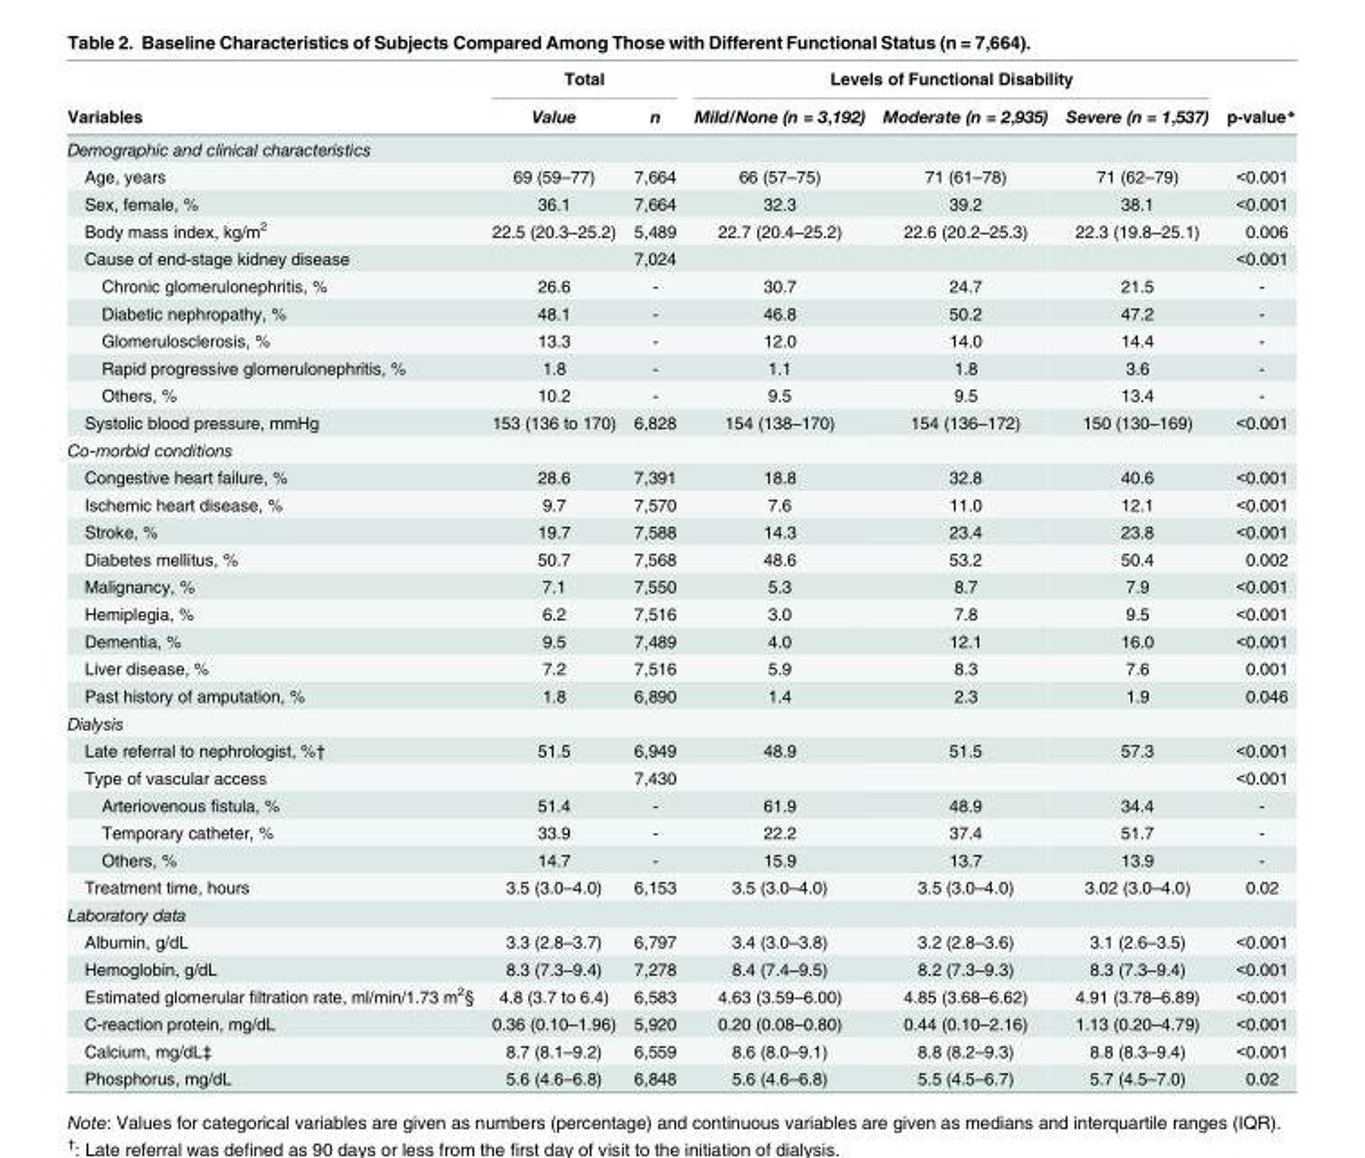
<table><thead><tr><td rowspan="2">Variables</td><td colspan="2">Total</td><td colspan="3">Levels of Functional Disability</td><td rowspan="2">p-value*</td></tr><tr><td>Value</td><td>n</td><td>Mild/None (n = 3,192)</td><td>Moderate (n = 2,935)</td><td>Severe (n = 1,537)</td></tr></thead><tbody><tr><td colspan="7">Demographic and clinical characteristics</td></tr><tr><td>Age, years</td><td>69 (59–77)</td><td>7,664</td><td>66 (57–75)</td><td>71 (61–78)</td><td>71 (62–79)</td><td>&lt;0.001</td></tr><tr><td>Sex, female, %</td><td>36.1</td><td>7,664</td><td>32.3</td><td>39.2</td><td>38.1</td><td>&lt;0.001</td></tr><tr><td>Body mass index, kg/m<sup>2</sup></td><td>22.5 (20.3–25.2)</td><td>5,489</td><td>22.7 (20.4–25.2)</td><td>22.6 (20.2–25.3)</td><td>22.3 (19.8–25.1)</td><td>0.006</td></tr><tr><td colspan="2">Cause of end-stage kidney disease</td><td>7,024</td><td></td><td></td><td></td><td>&lt;0.001</td></tr><tr><td>Chronic glomerulonephritis, %</td><td>26.6</td><td>-</td><td>30.7</td><td>24.7</td><td>21.5</td><td>-</td></tr><tr><td>Diabetic nephropathy, %</td><td>48.1</td><td>-</td><td>46.8</td><td>50.2</td><td>47.2</td><td>-</td></tr><tr><td>Glomerulosclerosis, %</td><td>13.3</td><td>-</td><td>12.0</td><td>14.0</td><td>14.4</td><td>-</td></tr><tr><td>Rapid progressive glomerulonephritis, %</td><td>1.8</td><td>-</td><td>1.1</td><td>1.8</td><td>3.6</td><td>-</td></tr><tr><td>Others, %</td><td>10.2</td><td>-</td><td>9.5</td><td>9.5</td><td>13.4</td><td>-</td></tr><tr><td>Systolic blood pressure, mmHg</td><td>153 (136 to 170)</td><td>6,828</td><td>154 (138–170)</td><td>154 (136–172)</td><td>150 (130–169)</td><td>&lt;0.001</td></tr><tr><td colspan="7">Co-morbid conditions</td></tr><tr><td>Congestive heart failure, %</td><td>28.6</td><td>7,391</td><td>18.8</td><td>32.8</td><td>40.6</td><td>&lt;0.001</td></tr><tr><td>Ischemic heart disease, %</td><td>9.7</td><td>7,570</td><td>7.6</td><td>11.0</td><td>12.1</td><td>&lt;0.001</td></tr><tr><td>Stroke, %</td><td>19.7</td><td>7,588</td><td>14.3</td><td>23.4</td><td>23.8</td><td>&lt;0.001</td></tr><tr><td>Diabetes mellitus, %</td><td>50.7</td><td>7,568</td><td>48.6</td><td>53.2</td><td>50.4</td><td>0.002</td></tr><tr><td>Malignancy, %</td><td>7.1</td><td>7,550</td><td>5.3</td><td>8.7</td><td>7.9</td><td>&lt;0.001</td></tr><tr><td>Hemiplegia, %</td><td>6.2</td><td>7,516</td><td>3.0</td><td>7.8</td><td>9.5</td><td>&lt;0.001</td></tr><tr><td>Dementia, %</td><td>9.5</td><td>7,489</td><td>4.0</td><td>12.1</td><td>16.0</td><td>&lt;0.001</td></tr><tr><td>Liver disease, %</td><td>7.2</td><td>7,516</td><td>5.9</td><td>8.3</td><td>7.6</td><td>0.001</td></tr><tr><td>Past history of amputation, %</td><td>1.8</td><td>6,890</td><td>1.4</td><td>2.3</td><td>1.9</td><td>0.046</td></tr><tr><td colspan="7">Dialysis</td></tr><tr><td>Late referral to nephrologist, %†</td><td>51.5</td><td>6,949</td><td>48.9</td><td>51.5</td><td>57.3</td><td>&lt;0.001</td></tr><tr><td>Type of vascular access</td><td></td><td>7,430</td><td></td><td></td><td></td><td>&lt;0.001</td></tr><tr><td>Arteriovenous fistula, %</td><td>51.4</td><td>-</td><td>61.9</td><td>48.9</td><td>34.4</td><td>-</td></tr><tr><td>Temporary catheter, %</td><td>33.9</td><td>-</td><td>22.2</td><td>37.4</td><td>51.7</td><td>-</td></tr><tr><td>Others, %</td><td>14.7</td><td>-</td><td>15.9</td><td>13.7</td><td>13.9</td><td>-</td></tr><tr><td>Treatment time, hours</td><td>3.5 (3.0–4.0)</td><td>6,153</td><td>3.5 (3.0–4.0)</td><td>3.5 (3.0–4.0)</td><td>3.02 (3.0–4.0)</td><td>0.02</td></tr><tr><td colspan="7">Laboratory data</td></tr><tr><td>Albumin, g/dL</td><td>3.3 (2.8–3.7)</td><td>6,797</td><td>3.4 (3.0–3.8)</td><td>3.2 (2.8–3.6)</td><td>3.1 (2.6–3.5)</td><td>&lt;0.001</td></tr><tr><td>Hemoglobin, g/dL</td><td>8.3 (7.3–9.4)</td><td>7,278</td><td>8.4 (7.4–9.5)</td><td>8.2 (7.3–9.3)</td><td>8.3 (7.3–9.4)</td><td>&lt;0.001</td></tr><tr><td>Estimated glomerular filtration rate, ml/min/1.73 m<sup>2</sup>§</td><td>4.8 (3.7 to 6.4)</td><td>6,583</td><td>4.63 (3.59–6.00)</td><td>4.85 (3.68–6.62)</td><td>4.91 (3.78–6.89)</td><td>&lt;0.001</td></tr><tr><td>C-reaction protein, mg/dL</td><td>0.36 (0.10–1.96)</td><td>5,920</td><td>0.20 (0.08–0.80)</td><td>0.44 (0.10–2.16)</td><td>1.13 (0.20–4.79)</td><td>&lt;0.001</td></tr><tr><td>Calcium, mg/dL‡</td><td>8.7 (8.1–9.2)</td><td>6,559</td><td>8.6 (8.0–9.1)</td><td>8.8 (8.2–9.3)</td><td>8.8 (8.3–9.4)</td><td>&lt;0.001</td></tr><tr><td>Phosphorus, mg/dL</td><td>5.6 (4.6–6.8)</td><td>6,848</td><td>5.6 (4.6–6.8)</td><td>5.5 (4.5–6.7)</td><td>5.7 (4.5–7.0)</td><td>0.02</td></tr></tbody></table>